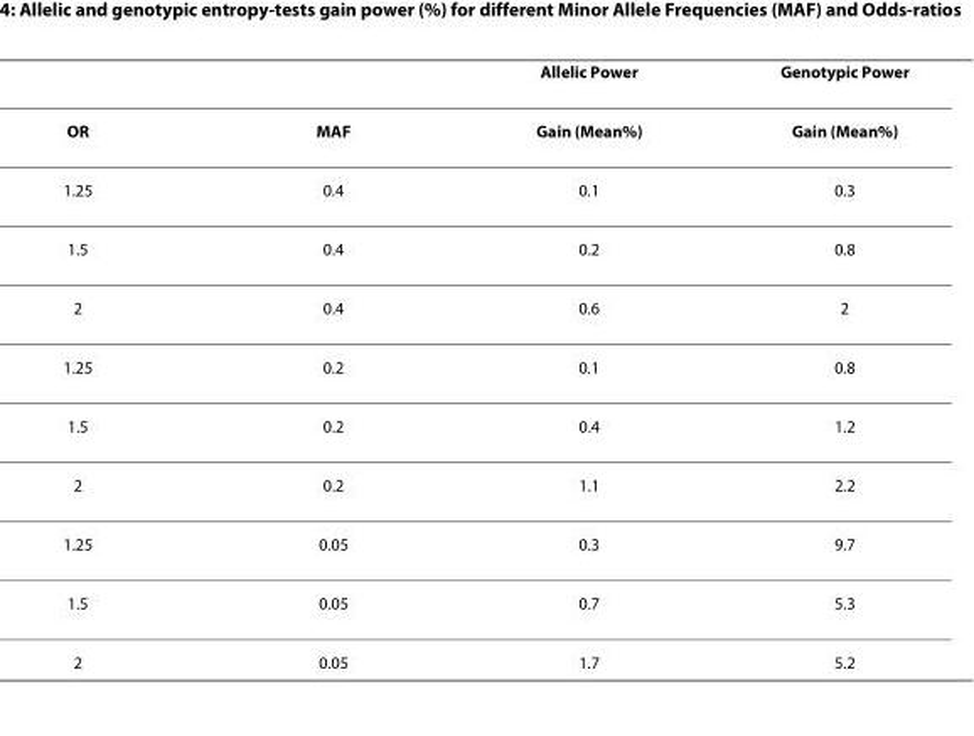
<table><thead><tr><td></td><td></td><td>Allelic Power</td><td>Genotypic Power</td></tr></thead><tbody><tr><td>OR</td><td>MAF</td><td>Gain (Mean%)</td><td>Gain (Mean%)</td></tr><tr><td>1.25</td><td>0.4</td><td>0.1</td><td>0.3</td></tr><tr><td>1.5</td><td>0.4</td><td>0.2</td><td>0.8</td></tr><tr><td>2</td><td>0.4</td><td>0.6</td><td>2</td></tr><tr><td>1.25</td><td>0.2</td><td>0.1</td><td>0.8</td></tr><tr><td>1.5</td><td>0.2</td><td>0.4</td><td>1.2</td></tr><tr><td>2</td><td>0.2</td><td>1.1</td><td>2.2</td></tr><tr><td>1.25</td><td>0.05</td><td>0.3</td><td>9.7</td></tr><tr><td>1.5</td><td>0.05</td><td>0.7</td><td>5.3</td></tr><tr><td>2</td><td>0.05</td><td>1.7</td><td>5.2</td></tr></tbody></table>